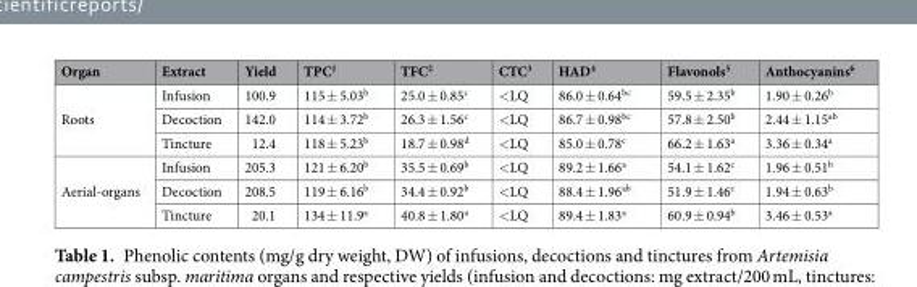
<table><thead><tr><td>Organ</td><td>Extract</td><td>Yield</td><td>TPC<sup>1</sup></td><td>TFC<sup>2</sup></td><td>CTC<sup>3</sup></td><td>HAD<sup>4</sup></td><td>Flavonols<sup>5</sup></td><td>Anthocyanins<sup>6</sup></td></tr></thead><tbody><tr><td rowspan="3">Roots</td><td>Infusion</td><td>100.9</td><td>115 ± 5.03<sup>b</sup></td><td>25.0 ± 0.85<sup>c</sup></td><td>&lt;LQ</td><td>86.0 ± 0.64<sup>bc</sup></td><td>59.5 ± 2.35<sup>b</sup></td><td>1.90 ± 0.26<sup>b</sup></td></tr><tr><td>Decoction</td><td>142.0</td><td>114 ± 3.72<sup>b</sup></td><td>26.3 ± 1.56<sup>c</sup></td><td>&lt;LQ</td><td>86.7 ± 0.98<sup>bc</sup></td><td>57.8 ± 2.50<sup>b</sup></td><td>2.44 ± 1.15<sup>ab</sup></td></tr><tr><td>Tincture</td><td>12.4</td><td>118 ± 5.23<sup>b</sup></td><td>18.7 ± 0.98<sup>d</sup></td><td>&lt;LQ</td><td>85.0 ± 0.78<sup>c</sup></td><td>66.2 ± 1.63<sup>a</sup></td><td>3.36 ± 0.34<sup>a</sup></td></tr><tr><td rowspan="3">Aerial-organs</td><td>Infusion</td><td>205.3</td><td>121 ± 6.20<sup>b</sup></td><td>35.5 ± 0.69<sup>b</sup></td><td>&lt;LQ</td><td>89.2 ± 1.66<sup>a</sup></td><td>54.1 ± 1.62<sup>c</sup></td><td>1.96 ± 0.51<sup>b</sup></td></tr><tr><td>Decoction</td><td>208.5</td><td>119 ± 6.16<sup>b</sup></td><td>34.4 ± 0.92<sup>b</sup></td><td>&lt;LQ</td><td>88.4 ± 1.96<sup>ab</sup></td><td>51.9 ± 1.46<sup>c</sup></td><td>1.94 ± 0.63<sup>b</sup></td></tr><tr><td>Tincture</td><td>20.1</td><td>134 ± 11.9<sup>a</sup></td><td>40.8 ± 1.80<sup>a</sup></td><td>&lt;LQ</td><td>89.4 ± 1.83<sup>a</sup></td><td>60.9 ± 0.94<sup>b</sup></td><td>3.46 ± 0.53<sup>a</sup></td></tr></tbody></table>